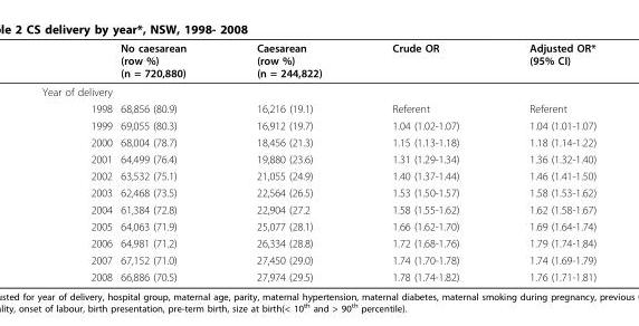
<table><thead><tr><td></td><td>No caesarean (row %) (n = 720,880)</td><td>Caesarean (row %) (n = 244,822)</td><td>Crude OR</td><td>Adjusted OR* (95% CI)</td></tr></thead><tbody><tr><td colspan="5">Year of delivery</td></tr><tr><td>1998</td><td>68,856 (80.9)</td><td>16,216 (19.1)</td><td>Referent</td><td>Referent</td></tr><tr><td>1999</td><td>69,055 (80.3)</td><td>16,912 (19.7)</td><td>1.04 (1.02-1.07)</td><td>1.04 (1.01-1.07)</td></tr><tr><td>2000</td><td>68,004 (78.7)</td><td>18,456 (21.3)</td><td>1.15 (1.13-1.18)</td><td>1.18 (1.14-1.22)</td></tr><tr><td>2001</td><td>64,499 (76.4)</td><td>19,880 (23.6)</td><td>1.31 (1.29-1.34)</td><td>1.36 (1.32-1.40)</td></tr><tr><td>2002</td><td>63,532 (75.1)</td><td>21,055 (24.9)</td><td>1.40 (1.37-1.44)</td><td>1.46 (1.41-1.50)</td></tr><tr><td>2003</td><td>62,468 (73.5)</td><td>22,564 (26.5)</td><td>1.53 (1.50-1.57)</td><td>1.58 (1.53-1.62)</td></tr><tr><td>2004</td><td>61,384 (72.8)</td><td>22,904 (27.2</td><td>1.58 (1.55-1.62)</td><td>1.62 (1.58-1.67)</td></tr><tr><td>2005</td><td>64,063 (71.9)</td><td>25,077 (28.1)</td><td>1.66 (1.62-1.70)</td><td>1.69 (1.64-1.74)</td></tr><tr><td>2006</td><td>64,981 (71.2)</td><td>26,334 (28.8)</td><td>1.72 (1.68-1.76)</td><td>1.79 (1.74-1.84)</td></tr><tr><td>2007</td><td>67,152 (71.0)</td><td>27,450 (29.0)</td><td>1.74 (1.70-1.78)</td><td>1.74 (1.69-1.79)</td></tr><tr><td>2008</td><td>66,886 (70.5)</td><td>27,974 (29.5)</td><td>1.78 (1.74-1.82)</td><td>1.76 (1.71-1.81)</td></tr></tbody></table>